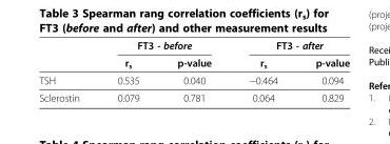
<table><thead><tr><td rowspan="2"></td><td colspan="2">FT3 - before</td><td colspan="2">FT3 - after</td></tr><tr><td>r<sub>s</sub></td><td>p-value</td><td>r<sub>s</sub></td><td>p-value</td></tr></thead><tbody><tr><td>TSH</td><td>0.535</td><td>0.040</td><td>−0.464</td><td>0.094</td></tr><tr><td>Sclerostin</td><td>0.079</td><td>0.781</td><td>0.064</td><td>0.829</td></tr></tbody></table>